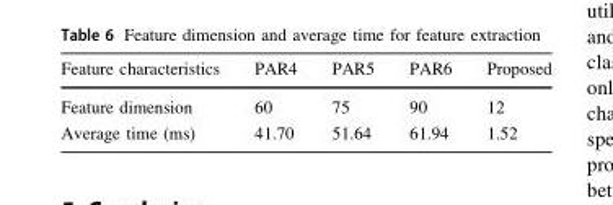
<table><thead><tr><td>Feature characteristics</td><td>PAR4</td><td>PAR5</td><td>PAR6</td><td>Proposed</td></tr></thead><tbody><tr><td>Feature dimension</td><td>60</td><td>75</td><td>90</td><td>12</td></tr><tr><td>Average time (ms)</td><td>41.70</td><td>51.64</td><td>61.94</td><td>1.52</td></tr></tbody></table>